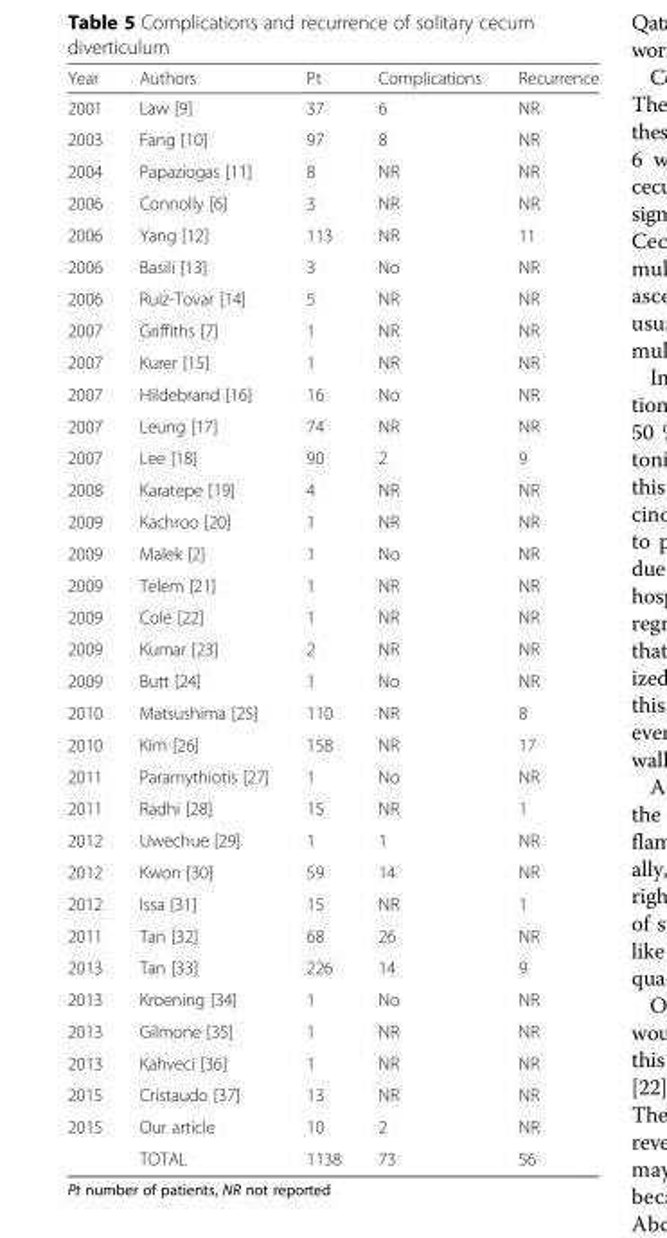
<table><thead><tr><td>Year</td><td>Authors</td><td>Pt</td><td>Complications</td><td>Recurrence</td></tr></thead><tbody><tr><td>2001</td><td>Law [9]</td><td>37</td><td>6</td><td>NR</td></tr><tr><td>2003</td><td>Fang [10]</td><td>97</td><td>8</td><td>NR</td></tr><tr><td>2004</td><td>Papaziogas [11]</td><td>8</td><td>NR</td><td>NR</td></tr><tr><td>2006</td><td>Connolly [6]</td><td>3</td><td>NR</td><td>NR</td></tr><tr><td>2006</td><td>Yang [12]</td><td>113</td><td>NR</td><td>11</td></tr><tr><td>2006</td><td>Basili [13]</td><td>3</td><td>No</td><td>NR</td></tr><tr><td>2006</td><td>Ruiz-Tovar [14]</td><td>5</td><td>NR</td><td>NR</td></tr><tr><td>2007</td><td>Griffiths [7]</td><td>1</td><td>NR</td><td>NR</td></tr><tr><td>2007</td><td>Kurer [15]</td><td>1</td><td>NR</td><td>NR</td></tr><tr><td>2007</td><td>Hildebrand [16]</td><td>16</td><td>No</td><td>NR</td></tr><tr><td>2007</td><td>Leung [17]</td><td>74</td><td>NR</td><td>NR</td></tr><tr><td>2007</td><td>Lee [18]</td><td>90</td><td>2</td><td>9</td></tr><tr><td>2008</td><td>Karatepe [19]</td><td>4</td><td>NR</td><td>NR</td></tr><tr><td>2009</td><td>Kachroo [20]</td><td>1</td><td>NR</td><td>NR</td></tr><tr><td>2009</td><td>Malek [2]</td><td>1</td><td>No</td><td>NR</td></tr><tr><td>2009</td><td>Telem [21]</td><td>1</td><td>NR</td><td>NR</td></tr><tr><td>2009</td><td>Cole [22]</td><td>1</td><td>NR</td><td>NR</td></tr><tr><td>2009</td><td>Kumar [23]</td><td>2</td><td>NR</td><td>NR</td></tr><tr><td>2009</td><td>Butt [24]</td><td>1</td><td>No</td><td>NR</td></tr><tr><td>2010</td><td>Matsushima [25]</td><td>110</td><td>NR</td><td>8</td></tr><tr><td>2010</td><td>Kim [26]</td><td>158</td><td>NR</td><td>17</td></tr><tr><td>2011</td><td>Paramythiotis [27]</td><td>1</td><td>No</td><td>NR</td></tr><tr><td>2011</td><td>Radhi [28]</td><td>15</td><td>NR</td><td>1</td></tr><tr><td>2012</td><td>Uwechue [29]</td><td>1</td><td>1</td><td>NR</td></tr><tr><td>2012</td><td>Kwon [30]</td><td>59</td><td>14</td><td>NR</td></tr><tr><td>2012</td><td>Issa [31]</td><td>15</td><td>NR</td><td>1</td></tr><tr><td>2011</td><td>Tan [32]</td><td>68</td><td>26</td><td>NR</td></tr><tr><td>2013</td><td>Tan [33]</td><td>226</td><td>14</td><td>9</td></tr><tr><td>2013</td><td>Kroening [34]</td><td>1</td><td>No</td><td>NR</td></tr><tr><td>2013</td><td>Gilmone [35]</td><td>1</td><td>NR</td><td>NR</td></tr><tr><td>2013</td><td>Kahveci [36]</td><td>1</td><td>NR</td><td>NR</td></tr><tr><td>2015</td><td>Cristaudo [37]</td><td>13</td><td>NR</td><td>NR</td></tr><tr><td rowspan="2">2015</td><td>Our article</td><td>10</td><td>2</td><td>NR</td></tr><tr><td>TOTAL</td><td>1138</td><td>73</td><td>56</td></tr></tbody></table>